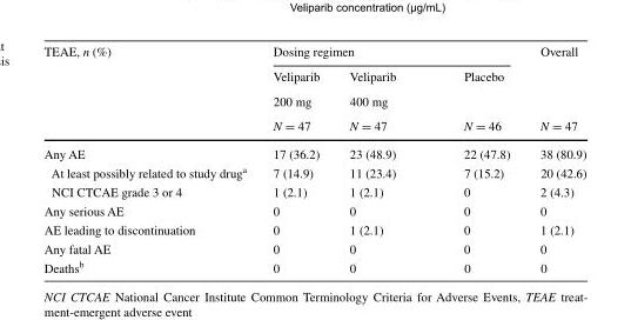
<table><thead><tr><td rowspan="4">TEAE, n (%)</td><td colspan="3">Dosing regimen</td><td rowspan="4">Overall N = 47</td></tr><tr><td rowspan="3">Veliparib 200 mg N = 47</td><td rowspan="3">Veliparib 400 mg N = 47</td><td rowspan="3">Placebo N = 46</td></tr><tr></tr><tr></tr></thead><tbody><tr><td>Any AE</td><td>17 (36.2)</td><td>23 (48.9)</td><td>22 (47.8)</td><td>38 (80.9)</td></tr><tr><td>At least possibly related to study drug<sup>a</sup></td><td>7 (14.9)</td><td>11 (23.4)</td><td>7 (15.2)</td><td>20 (42.6)</td></tr><tr><td>NCI CTCAE grade 3 or 4</td><td>1 (2.1)</td><td>1 (2.1)</td><td>0</td><td>2 (4.3)</td></tr><tr><td>Any serious AE</td><td>0</td><td>0</td><td>0</td><td>0</td></tr><tr><td>AE leading to discontinuation</td><td>0</td><td>1 (2.1)</td><td>0</td><td>1 (2.1)</td></tr><tr><td>Any fatal AE</td><td>0</td><td>0</td><td>0</td><td>0</td></tr><tr><td>Deaths<sup>b</sup></td><td>0</td><td>0</td><td>0</td><td>0</td></tr></tbody></table>